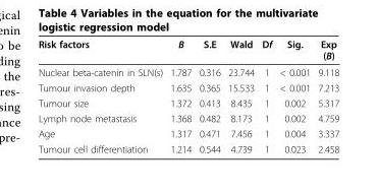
<table><thead><tr><td>Risk factors</td><td>B</td><td>S.E</td><td>Wald</td><td>Df</td><td>Sig.</td><td>Exp (B)</td></tr></thead><tbody><tr><td>Nuclear beta-catenin in SLN(s)</td><td>1.787</td><td>0.316</td><td>23.744</td><td>1</td><td>&lt; 0.001</td><td>9.118</td></tr><tr><td>Tumour invasion depth</td><td>1.635</td><td>0.365</td><td>15.533</td><td>1</td><td>&lt; 0.001</td><td>7.213</td></tr><tr><td>Tumour size</td><td>1.372</td><td>0.413</td><td>8.435</td><td>1</td><td>0.002</td><td>5.317</td></tr><tr><td>Lymph node metastasis</td><td>1.368</td><td>0.482</td><td>8.173</td><td>1</td><td>0.002</td><td>4.759</td></tr><tr><td>Age</td><td>1.317</td><td>0.471</td><td>7.456</td><td>1</td><td>0.004</td><td>3.337</td></tr><tr><td>Tumour cell differentiation</td><td>1.214</td><td>0.544</td><td>4.739</td><td>1</td><td>0.023</td><td>2.458</td></tr></tbody></table>